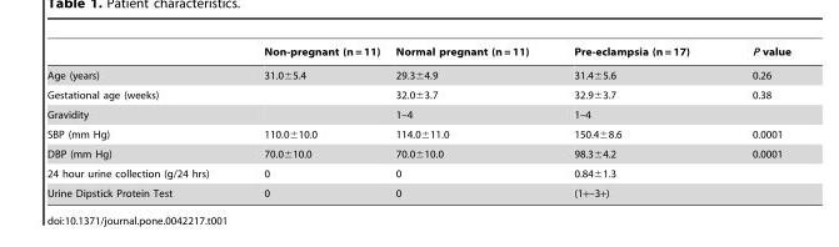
<table><thead><tr><td></td><td>Non-pregnant (n = 11)</td><td>Normal pregnant (n = 11)</td><td>Pre-eclampsia (n = 17)</td><td>P value</td></tr></thead><tbody><tr><td>Age (years)</td><td>31.0±5.4</td><td>29.3±4.9</td><td>31.4±5.6</td><td>0.26</td></tr><tr><td>Gestational age (weeks)</td><td></td><td>32.0±3.7</td><td>32.9±3.7</td><td>0.38</td></tr><tr><td>Gravidity</td><td></td><td>1–4</td><td>1–4</td><td></td></tr><tr><td>SBP (mm Hg)</td><td>110.0±10.0</td><td>114.0±11.0</td><td>150.4±8.6</td><td>0.0001</td></tr><tr><td>DBP (mm Hg)</td><td>70.0±10.0</td><td>70.0±10.0</td><td>98.3±4.2</td><td>0.0001</td></tr><tr><td>24 hour urine collection (g/24 hrs)</td><td>0</td><td>0</td><td>0.84±1.3</td><td></td></tr><tr><td>Urine Dipstick Protein Test</td><td>0</td><td>0</td><td>(1+–3+)</td><td></td></tr></tbody></table>